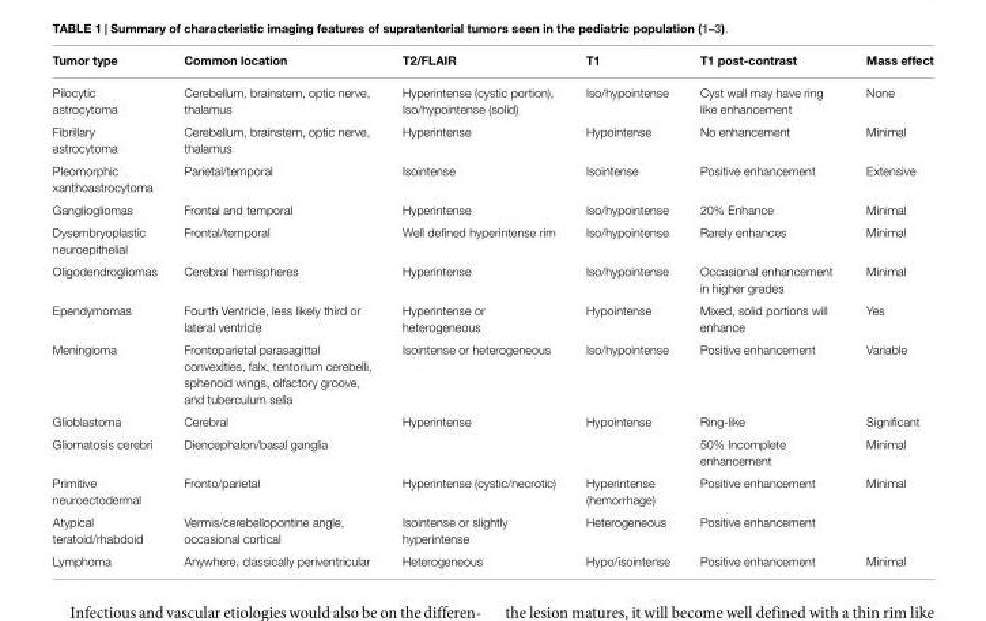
<table><thead><tr><td>Tumor type</td><td>Common location</td><td>T2/FLAIR</td><td>T1</td><td>T1 post-contrast</td><td>Mass effect</td></tr></thead><tbody><tr><td>Pilocytic astrocytoma</td><td>Cerebellum, brainstem, optic nerve, thalamus</td><td>Hyperintense (cystic portion), Iso/hypointense (solid)</td><td>Iso/hypointense</td><td>Cyst wall may have ring like enhancement</td><td>None</td></tr><tr><td>Fibrillary astrocytoma</td><td>Cerebellum, brainstem, optic nerve, thalamus</td><td>Hyperintense</td><td>Hypointense</td><td>No enhancement</td><td>Minimal</td></tr><tr><td>Pleomorphic xanthoastrocytoma</td><td>Parietal/temporal</td><td>Isointense</td><td>Isointense</td><td>Positive enhancement</td><td>Extensive</td></tr><tr><td>Gangliogliomas</td><td>Frontal and temporal</td><td>Hyperintense</td><td>Iso/hypointense</td><td>20% Enhance</td><td>Minimal</td></tr><tr><td>Dysembryoplastic neuroepithelial</td><td>Frontal/temporal</td><td>Well defined hyperintense rim</td><td>Iso/hypointense</td><td>Rarely enhances</td><td>Minimal</td></tr><tr><td>Oligodendrogliomas</td><td>Cerebral hemispheres</td><td>Hyperintense</td><td>Iso/hypointense</td><td>Occasional enhancement in higher grades</td><td>Minimal</td></tr><tr><td>Ependymomas</td><td>Fourth Ventricle, less likely third or lateral ventricle</td><td>Hyperintense or heterogeneous</td><td>Hypointense</td><td>Mixed, solid portions will enhance</td><td>Yes</td></tr><tr><td>Meningioma</td><td>Frontoparietal parasagittal convexities, falx, tentorium cerebelli, sphenoid wings, olfactory groove, and tuberculum sella</td><td>Isointense or heterogeneous</td><td>Iso/hypointense</td><td>Positive enhancement</td><td>Variable</td></tr><tr><td>Glioblastoma</td><td>Cerebral</td><td>Hyperintense</td><td>Hypointense</td><td>Ring-like</td><td>Significant</td></tr><tr><td>Gliomatosis cerebri</td><td>Diencephalon/basal ganglia</td><td></td><td></td><td>50% Incomplete enhancement</td><td>Minimal</td></tr><tr><td>Primitive neuroectodermal</td><td>Fronto/parietal</td><td>Hyperintense (cystic/necrotic)</td><td>Hyperintense (hemorrhage)</td><td>Positive enhancement</td><td>Minimal</td></tr><tr><td>Atypical teratoid/rhabdoid</td><td>Vermis/cerebellopontine angle, occasional cortical</td><td>Isointense or slightly hyperintense</td><td>Heterogeneous</td><td>Positive enhancement</td><td></td></tr><tr><td>Lymphoma</td><td>Anywhere, classically periventricular</td><td>Heterogeneous</td><td>Hypo/isointense</td><td>Positive enhancement</td><td>Minimal</td></tr></tbody></table>